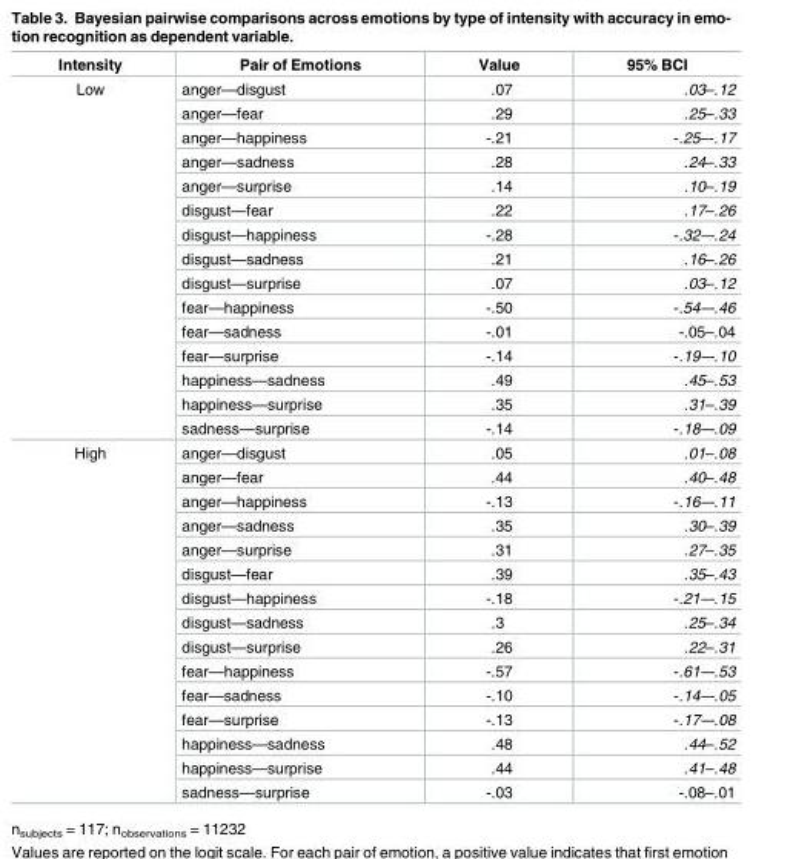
<table><thead><tr><td>Intensity</td><td>Pair of Emotions</td><td>Value</td><td>95% BCI</td></tr></thead><tbody><tr><td rowspan="15">Low</td><td>anger—disgust</td><td>.07</td><td>.03–.12</td></tr><tr><td>anger—fear</td><td>.29</td><td>.25–.33</td></tr><tr><td>anger—happiness</td><td>-.21</td><td>-.25–-.17</td></tr><tr><td>anger—sadness</td><td>.28</td><td>.24–.33</td></tr><tr><td>anger—surprise</td><td>.14</td><td>.10–.19</td></tr><tr><td>disgust—fear</td><td>.22</td><td>.17–.26</td></tr><tr><td>disgust—happiness</td><td>-.28</td><td>-.32–-.24</td></tr><tr><td>disgust—sadness</td><td>.21</td><td>.16–.26</td></tr><tr><td>disgust—surprise</td><td>.07</td><td>.03–.12</td></tr><tr><td>fear—happiness</td><td>-.50</td><td>-.54–-.46</td></tr><tr><td>fear—sadness</td><td>-.01</td><td>-.05–.04</td></tr><tr><td>fear—surprise</td><td>-.14</td><td>-.19–-.10</td></tr><tr><td>happiness—sadness</td><td>.49</td><td>.45–.53</td></tr><tr><td>happiness—surprise</td><td>.35</td><td>.31–.39</td></tr><tr><td>sadness—surprise</td><td>-.14</td><td>-.18–-.09</td></tr><tr><td rowspan="15">High</td><td>anger—disgust</td><td>.05</td><td>.01–.08</td></tr><tr><td>anger—fear</td><td>.44</td><td>.40–.48</td></tr><tr><td>anger—happiness</td><td>-.13</td><td>-.16–-.11</td></tr><tr><td>anger—sadness</td><td>.35</td><td>.30–.39</td></tr><tr><td>anger—surprise</td><td>.31</td><td>.27–.35</td></tr><tr><td>disgust—fear</td><td>.39</td><td>.35–.43</td></tr><tr><td>disgust—happiness</td><td>-.18</td><td>-.21–-.15</td></tr><tr><td>disgust—sadness</td><td>.3</td><td>.25–.34</td></tr><tr><td>disgust—surprise</td><td>.26</td><td>.22–.31</td></tr><tr><td>fear—happiness</td><td>-.57</td><td>-.61–-.53</td></tr><tr><td>fear—sadness</td><td>-.10</td><td>-.14–-.05</td></tr><tr><td>fear—surprise</td><td>-.13</td><td>-.17–-.08</td></tr><tr><td>happiness—sadness</td><td>.48</td><td>.44–.52</td></tr><tr><td>happiness—surprise</td><td>.44</td><td>.41–.48</td></tr><tr><td>sadness—surprise</td><td>-.03</td><td>-.08–.01</td></tr></tbody></table>